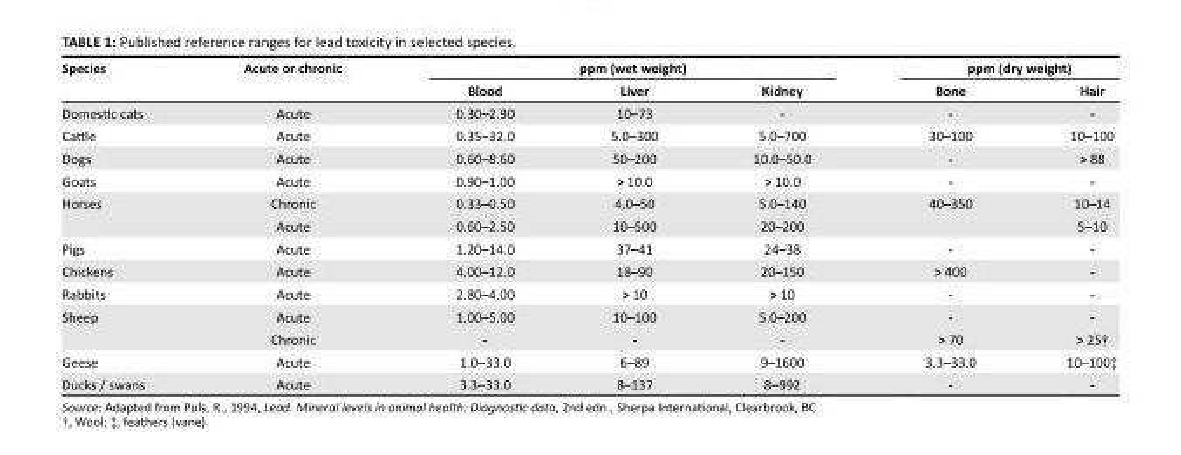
<table><thead><tr><td rowspan="2">Species</td><td rowspan="2">Acute or chronic</td><td colspan="3">ppm (wet weight)</td><td colspan="2">ppm (dry weight)</td></tr><tr><td>Blood</td><td>Liver</td><td>Kidney</td><td>Bone</td><td>Hair</td></tr></thead><tbody><tr><td>Domestic cats</td><td>Acute</td><td>0.30–2.90</td><td>10–73</td><td>-</td><td>-</td><td>-</td></tr><tr><td>Cattle</td><td>Acute</td><td>0.35–32.0</td><td>5.0–300</td><td>5.0–700</td><td>30–100</td><td>10–100</td></tr><tr><td>Dogs</td><td>Acute</td><td>0.60–8.60</td><td>50–200</td><td>10.0–50.0</td><td>-</td><td>&gt; 88</td></tr><tr><td>Goats</td><td>Acute</td><td>0.90–1.00</td><td>&gt; 10.0</td><td>&gt; 10.0</td><td>-</td><td>-</td></tr><tr><td rowspan="2">Horses</td><td>Chronic</td><td>0.33–0.50</td><td>4.0–50</td><td>5.0–140</td><td>40–350</td><td>10–14</td></tr><tr><td>Acute</td><td>0.60–2.50</td><td>10–500</td><td>20–200</td><td></td><td>5–10</td></tr><tr><td>Pigs</td><td>Acute</td><td>1.20–14.0</td><td>37–41</td><td>24–38</td><td>-</td><td>-</td></tr><tr><td>Chickens</td><td>Acute</td><td>4.00–12.0</td><td>18–90</td><td>20–150</td><td>&gt; 400</td><td>-</td></tr><tr><td>Rabbits</td><td>Acute</td><td>2.80–4.00</td><td>&gt; 10</td><td>&gt; 10</td><td>-</td><td>-</td></tr><tr><td rowspan="2">Sheep</td><td>Acute</td><td>1.00–5.00</td><td>10–100</td><td>5.0–200</td><td>-</td><td>-</td></tr><tr><td>Chronic</td><td>-</td><td>-</td><td>-</td><td>&gt; 70</td><td>&gt; 25†</td></tr><tr><td>Geese</td><td>Acute</td><td>1.0–33.0</td><td>6–89</td><td>9–1600</td><td>3.3–33.0</td><td>10–100‡</td></tr><tr><td>Ducks / swans</td><td>Acute</td><td>3.3–33.0</td><td>8–137</td><td>8–992</td><td>-</td><td>-</td></tr></tbody></table>